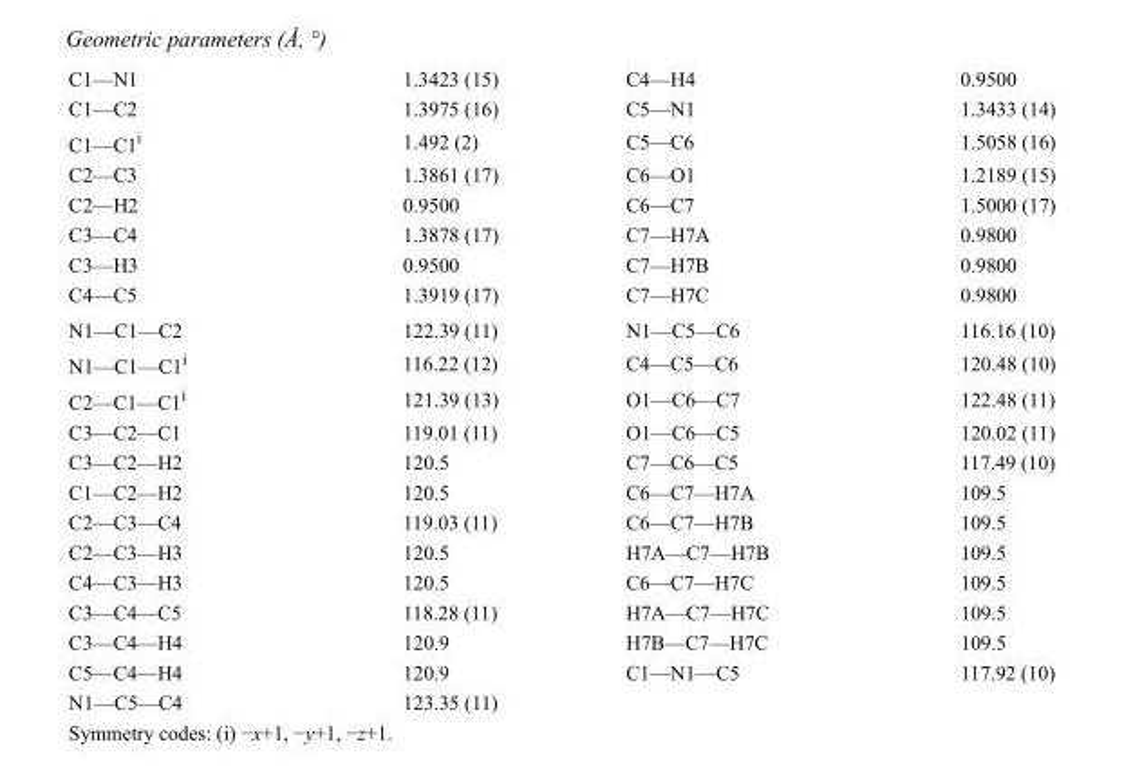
<table><tbody><tr><td>C1—N1</td><td>1.3423 (15)</td><td>C4—H4</td><td>0.9500</td></tr><tr><td>C1—C2</td><td>1.3975 (16)</td><td>C5—N1</td><td>1.3433 (14)</td></tr><tr><td>C1—C1<sup>i</sup></td><td>1.492 (2)</td><td>C5—C6</td><td>1.5058 (16)</td></tr><tr><td>C2—C3</td><td>1.3861 (17)</td><td>C6—O1</td><td>1.2189 (15)</td></tr><tr><td>C2—H2</td><td>0.9500</td><td>C6—C7</td><td>1.5000 (17)</td></tr><tr><td>C3—C4</td><td>1.3878 (17)</td><td>C7—H7A</td><td>0.9800</td></tr><tr><td>C3—H3</td><td>0.9500</td><td>C7—H7B</td><td>0.9800</td></tr><tr><td>C4—C5</td><td>1.3919 (17)</td><td>C7—H7C</td><td>0.9800</td></tr><tr><td>N1—C1—C2</td><td>122.39 (11)</td><td>N1—C5—C6</td><td>116.16 (10)</td></tr><tr><td>N1—C1—C1<sup>i</sup></td><td>116.22 (12)</td><td>C4—C5—C6</td><td>120.48 (10)</td></tr><tr><td>C2—C1—C1<sup>i</sup></td><td>121.39 (13)</td><td>O1—C6—C7</td><td>122.48 (11)</td></tr><tr><td>C3—C2—C1</td><td>119.01 (11)</td><td>O1—C6—C5</td><td>120.02 (11)</td></tr><tr><td>C3—C2—H2</td><td>120.5</td><td>C7—C6—C5</td><td>117.49 (10)</td></tr><tr><td>C1—C2—H2</td><td>120.5</td><td>C6—C7—H7A</td><td>109.5</td></tr><tr><td>C2—C3—C4</td><td>119.03 (11)</td><td>C6—C7—H7B</td><td>109.5</td></tr><tr><td>C2—C3—H3</td><td>120.5</td><td>H7A—C7—H7B</td><td>109.5</td></tr><tr><td>C4—C3—H3</td><td>120.5</td><td>C6—C7—H7C</td><td>109.5</td></tr><tr><td>C3—C4—C5</td><td>118.28 (11)</td><td>H7A—C7—H7C</td><td>109.5</td></tr><tr><td>C3—C4—H4</td><td>120.9</td><td>H7B—C7—H7C</td><td>109.5</td></tr><tr><td>C5—C4—H4</td><td>120.9</td><td>C1—N1—C5</td><td>117.92 (10)</td></tr><tr><td>N1—C5—C4</td><td>123.35 (11)</td><td></td><td></td></tr></tbody></table>